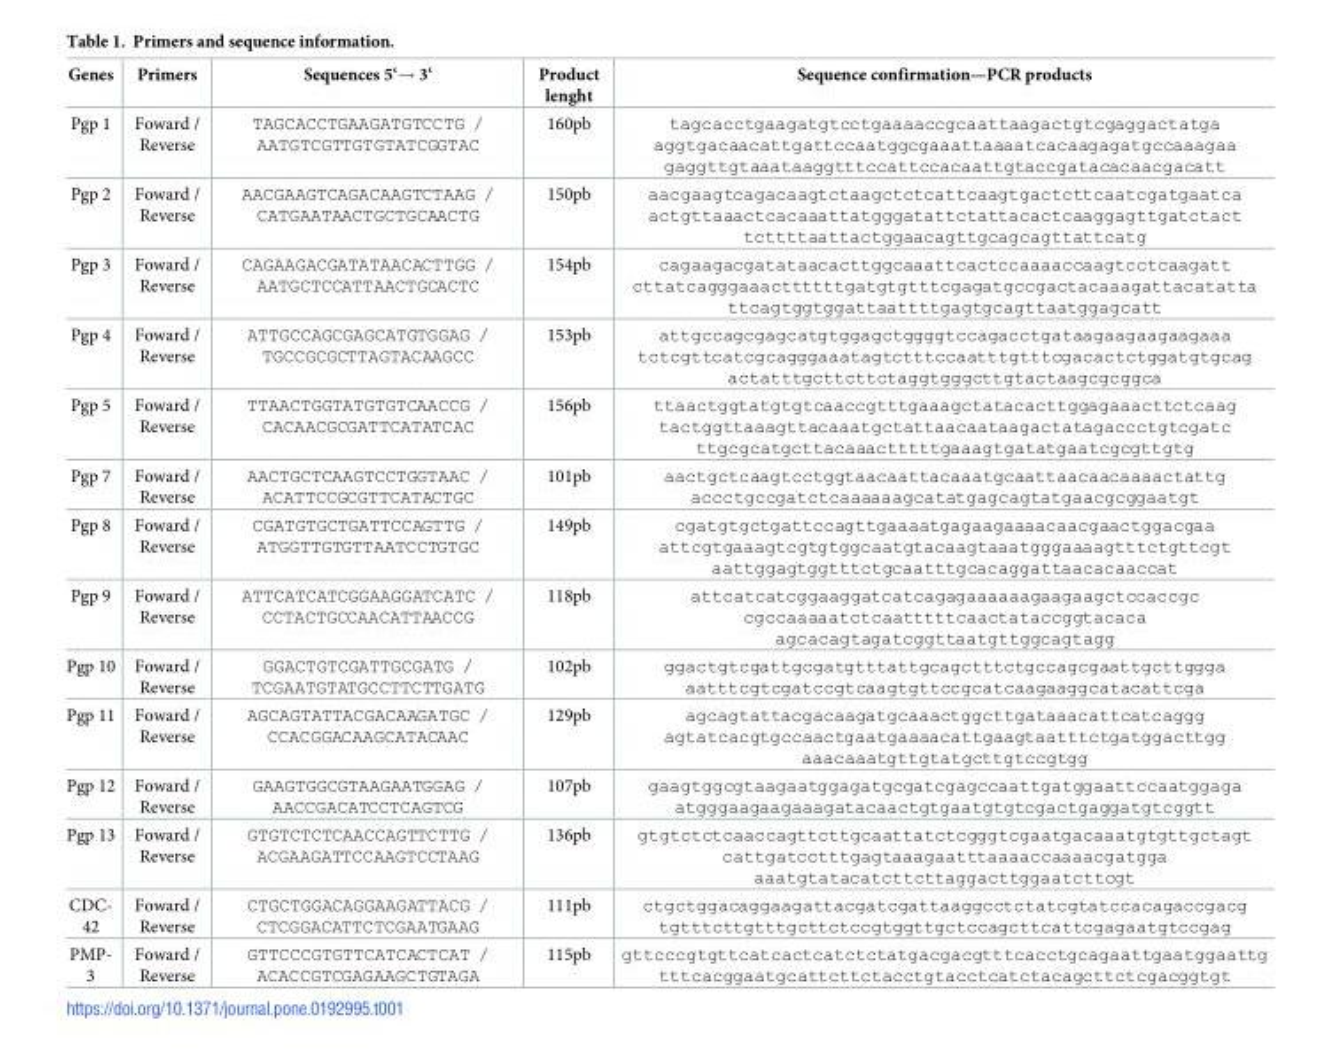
<table><thead><tr><td>Genes</td><td>Primers</td><td>Sequences 5‘→ 3‘</td><td>Product lenght</td><td>Sequence confirmation—PCR products</td></tr></thead><tbody><tr><td>Pgp 1</td><td>Foward / Reverse</td><td>TAGCACCTGAAGATGTCCTG / AATGTCGTTGTGTATCGGTAC</td><td>160pb</td><td>tagcacctgaagatgtcctgaaaaccgcaattaagactgtcgaggactatga aggtgacaacattgattccaatggcgaaattaaaatcacaagagatgccaaagaa gaggttgtaaataaggtttccattccacaattgtaccgatacacaacgacatt</td></tr><tr><td>Pgp 2</td><td>Foward / Reverse</td><td>AACGAAGTCAGACAAGTCTAAG / CATGAATAACTGCTGCAACTG</td><td>150pb</td><td>aacgaagtcagacaagtctaagctctcattcaagtgactcttcaatcgatgaatca actgttaaactcacaaattatgggatattctattacactcaaggagttgatctact tcttttaattactggaacagttgcagcagttattcatg</td></tr><tr><td>Pgp 3</td><td>Foward / Reverse</td><td>CAGAAGACGATATAACACTTGG / AATGCTCCATTAACTGCACTC</td><td>154pb</td><td>cagaagacgatataacacttggcaaattcactccaaaaccaagtcctcaagatt cttatcagggaaacttttttgatgtgtttcgagatgccgactacaaagattacatatta ttcagtggtggattaattttgagtgcagttaatggagcatt</td></tr><tr><td>Pgp 4</td><td>Foward / Reverse</td><td>ATTGCCAGCGAGCATGTGGAG / TGCCGCGCTTAGTACAAGCC</td><td>153pb</td><td>attgccagcgagcatgtggagctggggtccagacctgataagaagaagaagaaa tctcgttcatcgcagggaaatagtctttccaatttgtttcgacactctggatgtgcag actatttgcttcttctaggtgggcttgtactaagcgcggca</td></tr><tr><td>Pgp 5</td><td>Foward / Reverse</td><td>TTAACTGGTATGTGTCAACCG / CACAACGCGATTCATATCAC</td><td>156pb</td><td>ttaactggtatgtgtcaaccgtttgaaagctatacacttggagaaacttctcaag tactggttaaagttacaaatgctattaacaataagactatagaccctgtcgatc ttgcgcatgcttacaaactttttgaaagtgatatgaatcgcgttgtg</td></tr><tr><td>Pgp 7</td><td>Foward / Reverse</td><td>AACTGCTCAAGTCCTGGTAAC / ACATTCCGCGTTCATACTGC</td><td>101pb</td><td>aactgctcaagtcctggtaacaattacaaatgcaattaacaacaaaactattg accctgccgatctcaaaaaagcatatgagcagtatgaacgcggaatgt</td></tr><tr><td>Pgp 8</td><td>Foward / Reverse</td><td>CGATGTGCTGATTCCAGTTG / ATGGTTGTGTTAATCCTGTGC</td><td>149pb</td><td>cgatgtgctgattccagttgaaaatgagaagaaaacaacgaactggacgaa attcgtgaaagtcgtgtggcaatgtacaagtaaatgggaaaagtttctgttcgt aattggagtggtttctgcaatttgcacaggattaacacaaccat</td></tr><tr><td>Pgp 9</td><td>Foward / Reverse</td><td>ATTCATCATCGGAAGGATCATC / CCTACTGCCAACATTAACCG</td><td>118pb</td><td>attcatcatcggaaggatcatcagagaaaaaagaagaagctccaccgc cgccaaaaatctcaatttttcaactataccggtacaca agcacagtagatcggttaatgttggcagtagg</td></tr><tr><td>Pgp 10</td><td>Foward / Reverse</td><td>GGACTGTCGATTGCGATG / TCGAATGTATGCCTTCTTGATG</td><td>102pb</td><td>ggactgtcgattgcgatgtttattgcagctttctgccagcgaattgcttggga aatttcgtcgatccgtcaagtgttccgcatcaagaaggcatacattcga</td></tr><tr><td>Pgp 11</td><td>Foward / Reverse</td><td>AGCAGTATTACGACAAGATGC / CCACGGACAAGCATACAAC</td><td>129pb</td><td>agcagtattacgacaagatgcaaactggcttgataaacattcatcaggg agtatcacgtgccaactgaatgaaaacattgaagtaatttctgatggacttgg aaacaaatgttgtatgcttgtccgtgg</td></tr><tr><td>Pgp 12</td><td>Foward / Reverse</td><td>GAAGTGGCGTAAGAATGGAG / AACCGACATCCTCAGTCG</td><td>107pb</td><td>gaagtggcgtaagaatggagatgcgatcgagccaattgatggaattccaatggaga atgggaagaagaaagatacaactgtgaatgtgtcgactgaggatgtcggtt</td></tr><tr><td>Pgp 13</td><td>Foward / Reverse</td><td>GTGTCTCTCAACCAGTTCTTG / ACGAAGATTCCAAGTCCTAAG</td><td>136pb</td><td>gtgtctctcaaccagttcttgcaattatctcgggtcgaatgacaaatgtgttgctagt cattgatcctttgagtaaagaatttaaaaccaaaacgatgga aaatgtatacatcttcttaggacttggaatcttcgt</td></tr><tr><td>CDC- 42</td><td>Foward / Reverse</td><td>CTGCTGGACAGGAAGATTACG / CTCGGACATTCTCGAATGAAG</td><td>111pb</td><td>ctgctggacaggaagattacgatcgattaaggcctctatcgtatccacagaccgacg tgtttcttgtttgcttctccgtggttgctccagcttcattcgagaatgtccgag</td></tr><tr><td>PMP- 3</td><td>Foward / Reverse</td><td>GTTCCCGTGTTCATCACTCAT / ACACCGTCGAGAAGCTGTAGA</td><td>115pb</td><td>gttcccgtgttcatcactcatctctatgacgacgtttcacctgcagaattgaatggaattg tttcacggaatgcattcttctacctgtacctcatctacagcttctcgacggtgt</td></tr></tbody></table>